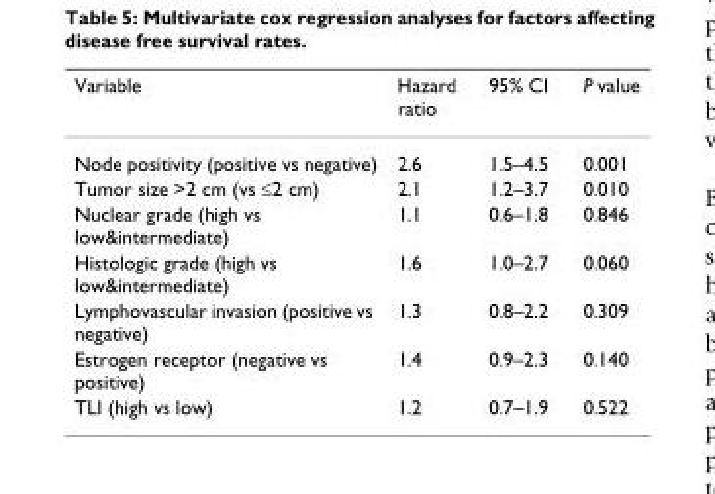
<table><thead><tr><td>Variable</td><td>Hazard ratio</td><td>95% CI</td><td>P value</td></tr></thead><tbody><tr><td>Node positivity (positive vs negative)</td><td>2.6</td><td>1.5–4.5</td><td>0.001</td></tr><tr><td>Tumor size &gt;2 cm (vs ≤2 cm)</td><td>2.1</td><td>1.2–3.7</td><td>0.010</td></tr><tr><td>Nuclear grade (high vs low&amp;intermediate)</td><td>1.1</td><td>0.6–1.8</td><td>0.846</td></tr><tr><td>Histologic grade (high vs low&amp;intermediate)</td><td>1.6</td><td>1.0–2.7</td><td>0.060</td></tr><tr><td>Lymphovascular invasion (positive vs negative)</td><td>1.3</td><td>0.8–2.2</td><td>0.309</td></tr><tr><td>Estrogen receptor (negative vs positive)</td><td>1.4</td><td>0.9–2.3</td><td>0.140</td></tr><tr><td>TLI (high vs low)</td><td>1.2</td><td>0.7–1.9</td><td>0.522</td></tr></tbody></table>